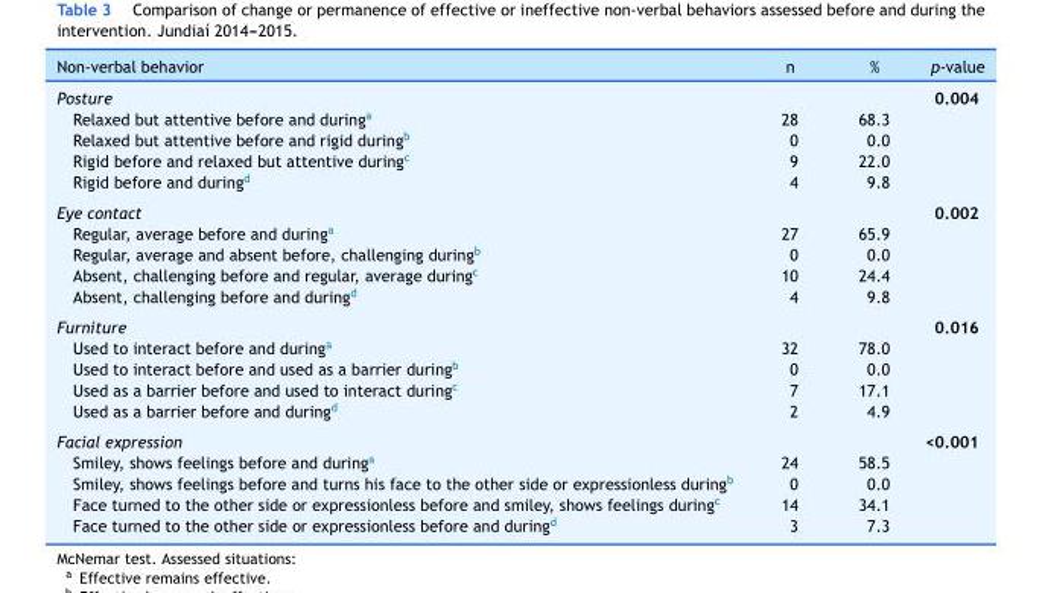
<table><thead><tr><td>Non-verbal behavior</td><td>n</td><td>%</td><td>p-value</td></tr></thead><tbody><tr><td>Posture</td><td></td><td></td><td>0.004</td></tr><tr><td>Relaxed but attentive before and during<sup>a</sup></td><td>28</td><td>68.3</td><td></td></tr><tr><td>Relaxed but attentive before and rigid during<sup>b</sup></td><td>0</td><td>0.0</td><td></td></tr><tr><td>Rigid before and relaxed but attentive during<sup>c</sup></td><td>9</td><td>22.0</td><td></td></tr><tr><td>Rigid before and during<sup>d</sup></td><td>4</td><td>9.8</td><td></td></tr><tr><td>Eye contact</td><td></td><td></td><td>0.002</td></tr><tr><td>Regular, average before and during<sup>a</sup></td><td>27</td><td>65.9</td><td></td></tr><tr><td>Regular, average and absent before, challenging during<sup>b</sup></td><td>0</td><td>0.0</td><td></td></tr><tr><td>Absent, challenging before and regular, average during<sup>c</sup></td><td>10</td><td>24.4</td><td></td></tr><tr><td>Absent, challenging before and during<sup>d</sup></td><td>4</td><td>9.8</td><td></td></tr><tr><td>Furniture</td><td></td><td></td><td>0.016</td></tr><tr><td>Used to interact before and during<sup>a</sup></td><td>32</td><td>78.0</td><td></td></tr><tr><td>Used to interact before and used as a barrier during<sup>b</sup></td><td>0</td><td>0.0</td><td></td></tr><tr><td>Used as a barrier before and used to interact during<sup>c</sup></td><td>7</td><td>17.1</td><td></td></tr><tr><td>Used as a barrier before and during<sup>d</sup></td><td>2</td><td>4.9</td><td></td></tr><tr><td>Facial expression</td><td></td><td></td><td>&lt;0.001</td></tr><tr><td>Smiley, shows feelings before and during<sup>a</sup></td><td>24</td><td>58.5</td><td></td></tr><tr><td>Smiley, shows feelings before and turns his face to the other side or expressionless during<sup>b</sup></td><td>0</td><td>0.0</td><td></td></tr><tr><td>Face turned to the other side or expressionless before and smiley, shows feelings during<sup>c</sup></td><td>14</td><td>34.1</td><td></td></tr><tr><td>Face turned to the other side or expressionless before and during<sup>d</sup></td><td>3</td><td>7.3</td><td></td></tr></tbody></table>